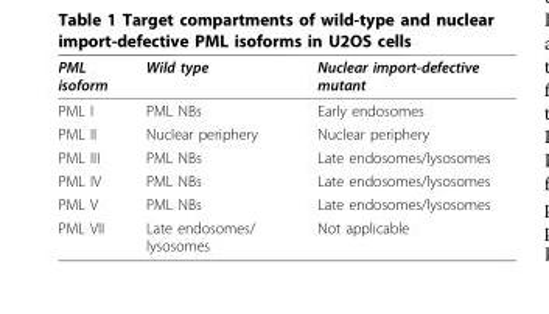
<table><thead><tr><td>PML isoform</td><td>Wild type</td><td>Nuclear import-defective mutant</td></tr></thead><tbody><tr><td>PML I</td><td>PML NBs</td><td>Early endosomes</td></tr><tr><td>PML II</td><td>Nuclear periphery</td><td>Nuclear periphery</td></tr><tr><td>PML III</td><td>PML NBs</td><td>Late endosomes/lysosomes</td></tr><tr><td>PML IV</td><td>PML NBs</td><td>Late endosomes/lysosomes</td></tr><tr><td>PML V</td><td>PML NBs</td><td>Late endosomes/lysosomes</td></tr><tr><td>PML VII</td><td>Late endosomes/ lysosomes</td><td>Not applicable</td></tr></tbody></table>